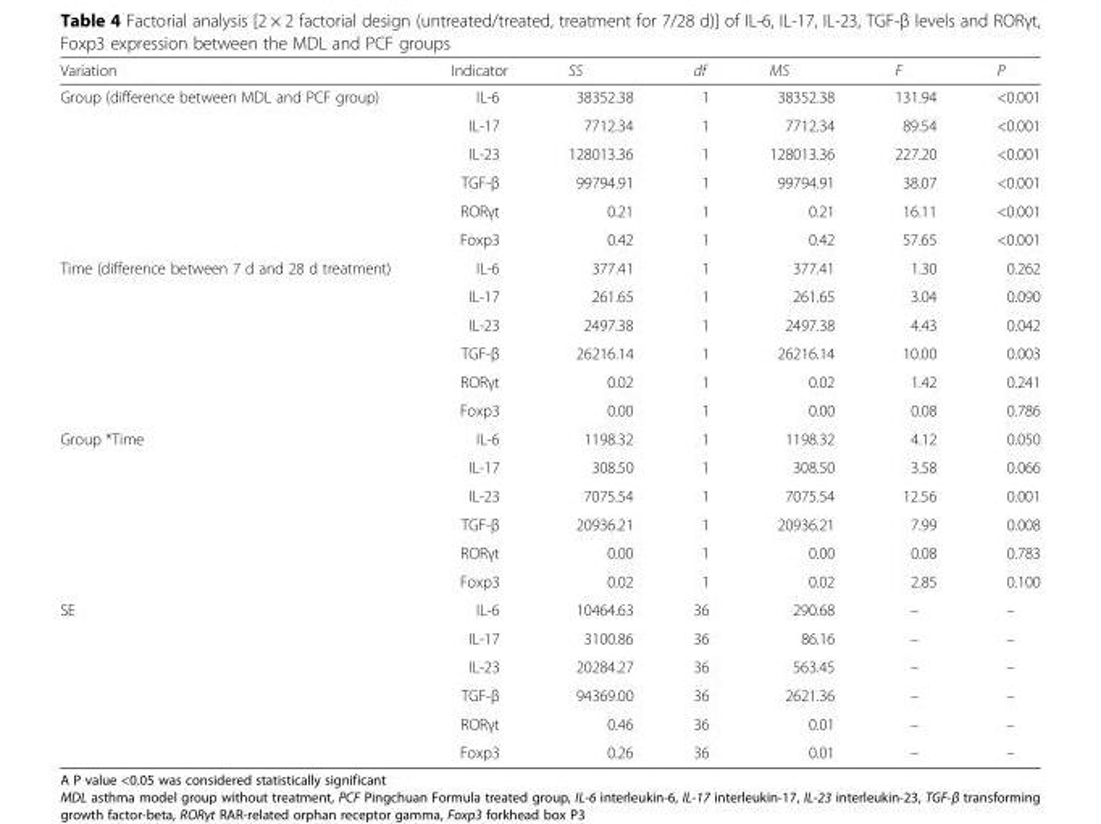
<table><thead><tr><td>Variation</td><td>Indicator</td><td>SS</td><td>df</td><td>MS</td><td>F</td><td>P</td></tr></thead><tbody><tr><td rowspan="6">Group (difference between MDL and PCF group)</td><td>IL-6</td><td>38352.38</td><td>1</td><td>38352.38</td><td>131.94</td><td>&lt;0.001</td></tr><tr><td>IL-17</td><td>7712.34</td><td>1</td><td>7712.34</td><td>89.54</td><td>&lt;0.001</td></tr><tr><td>IL-23</td><td>128013.36</td><td>1</td><td>128013.36</td><td>227.20</td><td>&lt;0.001</td></tr><tr><td>TGF-β</td><td>99794.91</td><td>1</td><td>99794.91</td><td>38.07</td><td>&lt;0.001</td></tr><tr><td>RORγt</td><td>0.21</td><td>1</td><td>0.21</td><td>16.11</td><td>&lt;0.001</td></tr><tr><td>Foxp3</td><td>0.42</td><td>1</td><td>0.42</td><td>57.65</td><td>&lt;0.001</td></tr><tr><td rowspan="6">Time (difference between 7 d and 28 d treatment)</td><td>IL-6</td><td>377.41</td><td>1</td><td>377.41</td><td>1.30</td><td>0.262</td></tr><tr><td>IL-17</td><td>261.65</td><td>1</td><td>261.65</td><td>3.04</td><td>0.090</td></tr><tr><td>IL-23</td><td>2497.38</td><td>1</td><td>2497.38</td><td>4.43</td><td>0.042</td></tr><tr><td>TGF-β</td><td>26216.14</td><td>1</td><td>26216.14</td><td>10.00</td><td>0.003</td></tr><tr><td>RORγt</td><td>0.02</td><td>1</td><td>0.02</td><td>1.42</td><td>0.241</td></tr><tr><td>Foxp3</td><td>0.00</td><td>1</td><td>0.00</td><td>0.08</td><td>0.786</td></tr><tr><td rowspan="6">Group *Time</td><td>IL-6</td><td>1198.32</td><td>1</td><td>1198.32</td><td>4.12</td><td>0.050</td></tr><tr><td>IL-17</td><td>308.50</td><td>1</td><td>308.50</td><td>3.58</td><td>0.066</td></tr><tr><td>IL-23</td><td>7075.54</td><td>1</td><td>7075.54</td><td>12.56</td><td>0.001</td></tr><tr><td>TGF-β</td><td>20936.21</td><td>1</td><td>20936.21</td><td>7.99</td><td>0.008</td></tr><tr><td>RORγt</td><td>0.00</td><td>1</td><td>0.00</td><td>0.08</td><td>0.783</td></tr><tr><td>Foxp3</td><td>0.02</td><td>1</td><td>0.02</td><td>2.85</td><td>0.100</td></tr><tr><td rowspan="6">SE</td><td>IL-6</td><td>10464.63</td><td>36</td><td>290.68</td><td>–</td><td>–</td></tr><tr><td>IL-17</td><td>3100.86</td><td>36</td><td>86.16</td><td>–</td><td>–</td></tr><tr><td>IL-23</td><td>20284.27</td><td>36</td><td>563.45</td><td>–</td><td>–</td></tr><tr><td>TGF-β</td><td>94369.00</td><td>36</td><td>2621.36</td><td>–</td><td>–</td></tr><tr><td>RORγt</td><td>0.46</td><td>36</td><td>0.01</td><td>–</td><td>–</td></tr><tr><td>Foxp3</td><td>0.26</td><td>36</td><td>0.01</td><td>–</td><td>–</td></tr></tbody></table>